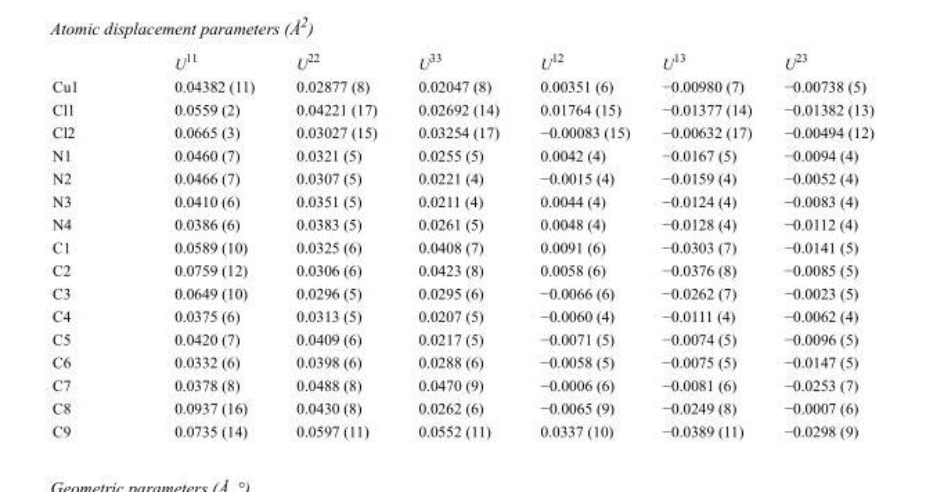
<table><thead><tr><td></td><td>U<sup>11</sup></td><td>U<sup>22</sup></td><td>U<sup>33</sup></td><td>U<sup>12</sup></td><td>U<sup>13</sup></td><td>U<sup>23</sup></td></tr></thead><tbody><tr><td>Cu1</td><td>0.04382 (11)</td><td>0.02877 (8)</td><td>0.02047 (8)</td><td>0.00351 (6)</td><td>−0.00980 (7)</td><td>−0.00738 (5)</td></tr><tr><td>Cl1</td><td>0.0559 (2)</td><td>0.04221 (17)</td><td>0.02692 (14)</td><td>0.01764 (15)</td><td>−0.01377 (14)</td><td>−0.01382 (13)</td></tr><tr><td>Cl2</td><td>0.0665 (3)</td><td>0.03027 (15)</td><td>0.03254 (17)</td><td>−0.00083 (15)</td><td>−0.00632 (17)</td><td>−0.00494 (12)</td></tr><tr><td>N1</td><td>0.0460 (7)</td><td>0.0321 (5)</td><td>0.0255 (5)</td><td>0.0042 (4)</td><td>−0.0167 (5)</td><td>−0.0094 (4)</td></tr><tr><td>N2</td><td>0.0466 (7)</td><td>0.0307 (5)</td><td>0.0221 (4)</td><td>−0.0015 (4)</td><td>−0.0159 (4)</td><td>−0.0052 (4)</td></tr><tr><td>N3</td><td>0.0410 (6)</td><td>0.0351 (5)</td><td>0.0211 (4)</td><td>0.0044 (4)</td><td>−0.0124 (4)</td><td>−0.0083 (4)</td></tr><tr><td>N4</td><td>0.0386 (6)</td><td>0.0383 (5)</td><td>0.0261 (5)</td><td>0.0048 (4)</td><td>−0.0128 (4)</td><td>−0.0112 (4)</td></tr><tr><td>C1</td><td>0.0589 (10)</td><td>0.0325 (6)</td><td>0.0408 (7)</td><td>0.0091 (6)</td><td>−0.0303 (7)</td><td>−0.0141 (5)</td></tr><tr><td>C2</td><td>0.0759 (12)</td><td>0.0306 (6)</td><td>0.0423 (8)</td><td>0.0058 (6)</td><td>−0.0376 (8)</td><td>−0.0085 (5)</td></tr><tr><td>C3</td><td>0.0649 (10)</td><td>0.0296 (5)</td><td>0.0295 (6)</td><td>−0.0066 (6)</td><td>−0.0262 (7)</td><td>−0.0023 (5)</td></tr><tr><td>C4</td><td>0.0375 (6)</td><td>0.0313 (5)</td><td>0.0207 (5)</td><td>−0.0060 (4)</td><td>−0.0111 (4)</td><td>−0.0062 (4)</td></tr><tr><td>C5</td><td>0.0420 (7)</td><td>0.0409 (6)</td><td>0.0217 (5)</td><td>−0.0071 (5)</td><td>−0.0074 (5)</td><td>−0.0096 (5)</td></tr><tr><td>C6</td><td>0.0332 (6)</td><td>0.0398 (6)</td><td>0.0288 (6)</td><td>−0.0058 (5)</td><td>−0.0075 (5)</td><td>−0.0147 (5)</td></tr><tr><td>C7</td><td>0.0378 (8)</td><td>0.0488 (8)</td><td>0.0470 (9)</td><td>−0.0006 (6)</td><td>−0.0081 (6)</td><td>−0.0253 (7)</td></tr><tr><td>C8</td><td>0.0937 (16)</td><td>0.0430 (8)</td><td>0.0262 (6)</td><td>−0.0065 (9)</td><td>−0.0249 (8)</td><td>−0.0007 (6)</td></tr><tr><td>C9</td><td>0.0735 (14)</td><td>0.0597 (11)</td><td>0.0552 (11)</td><td>0.0337 (10)</td><td>−0.0389 (11)</td><td>−0.0298 (9)</td></tr></tbody></table>